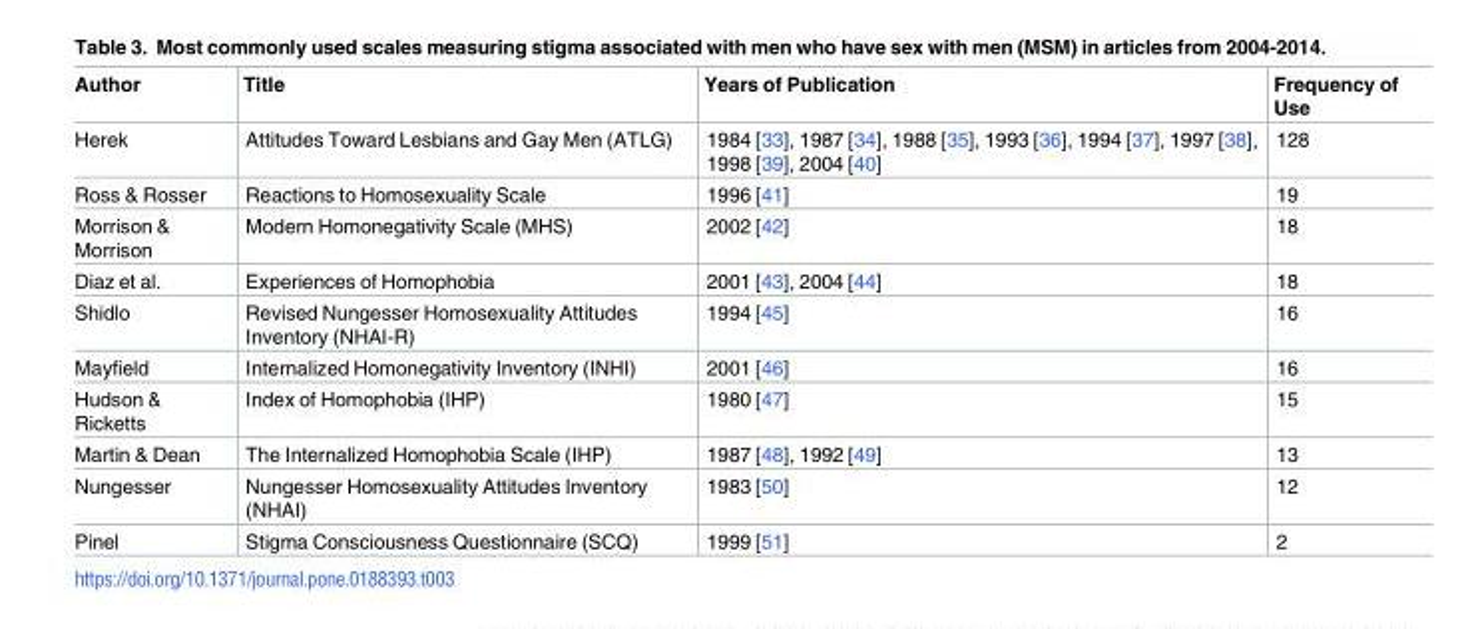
<table><thead><tr><td>Author</td><td>Title</td><td>Years of Publication</td><td>Frequency of Use</td></tr></thead><tbody><tr><td>Herek</td><td>Attitudes Toward Lesbians and Gay Men (ATLG)</td><td>1984 [33], 1987 [34], 1988 [35], 1993 [36], 1994 [37], 1997 [38], 1998 [39], 2004 [40]</td><td>128</td></tr><tr><td>Ross &amp; Rosser</td><td>Reactions to Homosexuality Scale</td><td>1996 [41]</td><td>19</td></tr><tr><td>Morrison &amp; Morrison</td><td>Modern Homonegativity Scale (MHS)</td><td>2002 [42]</td><td>18</td></tr><tr><td>Diaz et al.</td><td>Experiences of Homophobia</td><td>2001 [43], 2004 [44]</td><td>18</td></tr><tr><td>Shidlo</td><td>Revised Nungesser Homosexuality Attitudes Inventory (NHAI-R)</td><td>1994 [45]</td><td>16</td></tr><tr><td>Mayfield</td><td>Internalized Homonegativity Inventory (INHI)</td><td>2001 [46]</td><td>16</td></tr><tr><td>Hudson &amp; Ricketts</td><td>Index of Homophobia (IHP)</td><td>1980 [47]</td><td>15</td></tr><tr><td>Martin &amp; Dean</td><td>The Internalized Homophobia Scale (IHP)</td><td>1987 [48], 1992 [49]</td><td>13</td></tr><tr><td>Nungesser</td><td>Nungesser Homosexuality Attitudes Inventory (NHAI)</td><td>1983 [50]</td><td>12</td></tr><tr><td>Pinel</td><td>Stigma Consciousness Questionnaire (SCQ)</td><td>1999 [51]</td><td>2</td></tr></tbody></table>